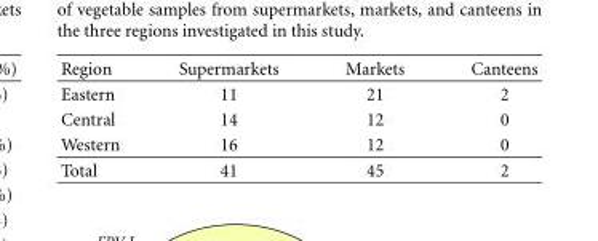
<table><thead><tr><td>Region</td><td>Supermarkets</td><td>Markets</td><td>Canteens</td></tr></thead><tbody><tr><td>Eastern</td><td>11</td><td>21</td><td>2</td></tr><tr><td>Central</td><td>14</td><td>12</td><td>0</td></tr><tr><td>Western</td><td>16</td><td>12</td><td>0</td></tr><tr><td>Total</td><td>41</td><td>45</td><td>2</td></tr></tbody></table>